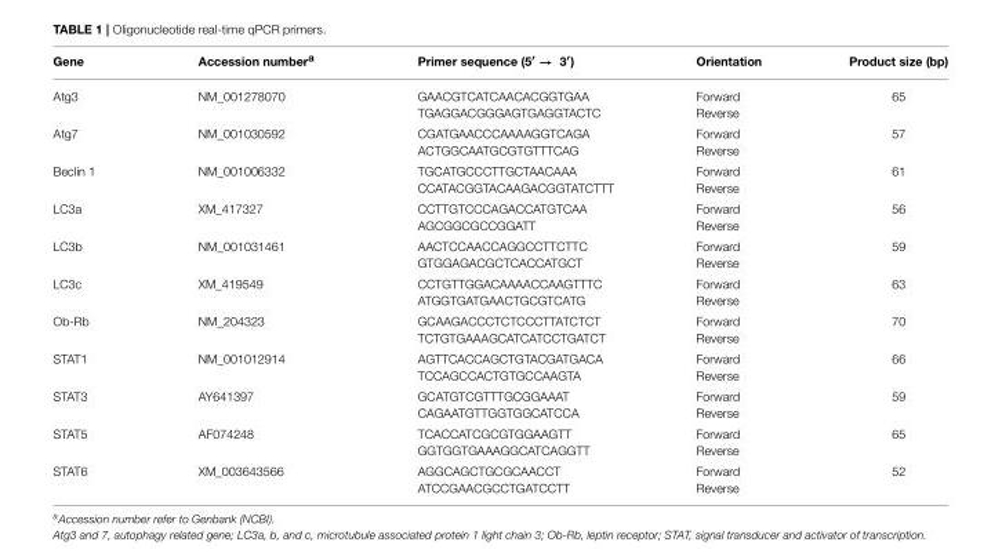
<table><thead><tr><td>Gene</td><td>Accession number<sup>a</sup></td><td>Primer sequence (5<sup>′</sup> → 3<sup>′</sup>)</td><td>Orientation</td><td>Product size (bp)</td></tr></thead><tbody><tr><td>Atg3</td><td>NM_001278070</td><td>GAACGTCATCAACACGGTGAA TGAGGACGGGAGTGAGGTACTC</td><td>Forward Reverse</td><td>65</td></tr><tr><td>Atg7</td><td>NM_001030592</td><td>CGATGAACCCAAAAGGTCAGA ACTGGCAATGCGTGTTTCAG</td><td>Forward Reverse</td><td>57</td></tr><tr><td>Beclin 1</td><td>NM_001006332</td><td>TGCATGCCCTTGCTAACAAA CCATACGGTACAAGACGGTATCTTT</td><td>Forward Reverse</td><td>61</td></tr><tr><td>LC3a</td><td>XM_417327</td><td>CCTTGTCCCAGACCATGTCAA AGCGGCGCCGGATT</td><td>Forward Reverse</td><td>56</td></tr><tr><td>LC3b</td><td>NM_001031461</td><td>AACTCCAACCAGGCCTTCTTC GTGGAGACGCTCACCATGCT</td><td>Forward Reverse</td><td>59</td></tr><tr><td>LC3c</td><td>XM_419549</td><td>CCTGTTGGACAAAACCAAGTTTC ATGGTGATGAACTGCGTCATG</td><td>Forward Reverse</td><td>63</td></tr><tr><td>Ob-Rb</td><td>NM_204323</td><td>GCAAGACCCTCTCCCTTATCTCT TCTGTGAAAGCATCATCCTGATCT</td><td>Forward Reverse</td><td>70</td></tr><tr><td>STAT1</td><td>NM_001012914</td><td>AGTTCACCAGCTGTACGATGACA TCCAGCCACTGTGCCAAGTA</td><td>Forward Reverse</td><td>66</td></tr><tr><td>STAT3</td><td>AY641397</td><td>GCATGTCGTTTGCGGAAAT CAGAATGTTGGTGGCATCCA</td><td>Forward Reverse</td><td>59</td></tr><tr><td>STAT5</td><td>AF074248</td><td>TCACCATCGCGTGGAAGTT GGTGGTGAAAGGCATCAGGTT</td><td>Forward Reverse</td><td>65</td></tr><tr><td>STAT6</td><td>XM_003643566</td><td>AGGCAGCTGCGCAACCT ATCCGAACGCCTGATCCTT</td><td>Forward Reverse</td><td>52</td></tr></tbody></table>